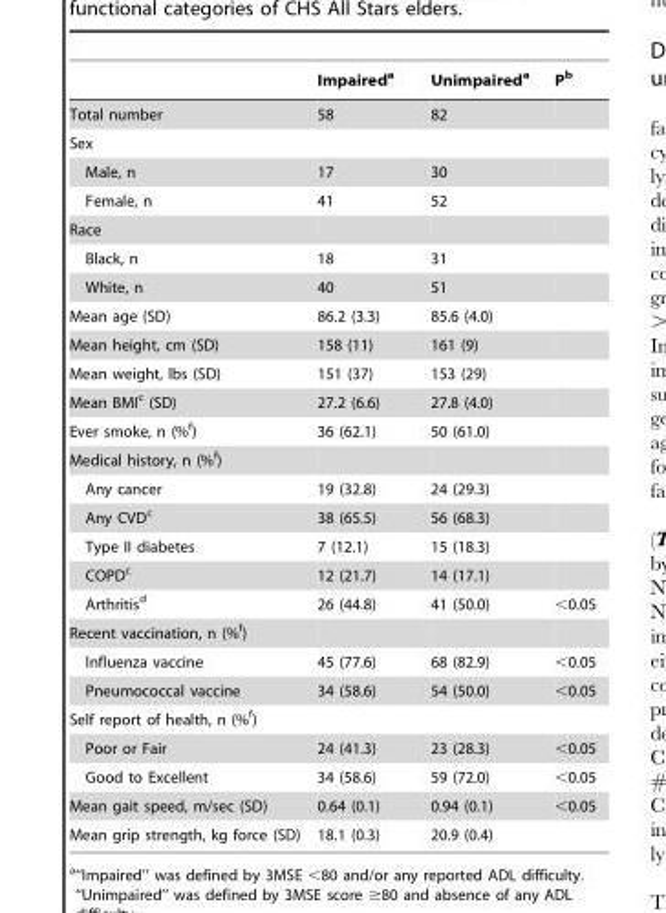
<table><thead><tr><td></td><td>Impaired<sup>a</sup></td><td>Unimpaired<sup>a</sup></td><td>P<sup>b</sup></td></tr></thead><tbody><tr><td>Total number</td><td>58</td><td>82</td><td></td></tr><tr><td colspan="4">Sex</td></tr><tr><td>Male, n</td><td>17</td><td>30</td><td></td></tr><tr><td>Female, n</td><td>41</td><td>52</td><td></td></tr><tr><td colspan="4">Race</td></tr><tr><td>Black, n</td><td>18</td><td>31</td><td></td></tr><tr><td>White, n</td><td>40</td><td>51</td><td></td></tr><tr><td>Mean age (SD)</td><td>86.2 (3.3)</td><td>85.6 (4.0)</td><td></td></tr><tr><td>Mean height, cm (SD)</td><td>158 (11)</td><td>161 (9)</td><td></td></tr><tr><td>Mean weight, lbs (SD)</td><td>151 (37)</td><td>153 (29)</td><td></td></tr><tr><td>Mean BMI<sup>c</sup> (SD)</td><td>27.2 (6.6)</td><td>27.8 (4.0)</td><td></td></tr><tr><td>Ever smoke, n (%<sup>f</sup>)</td><td>36 (62.1)</td><td>50 (61.0)</td><td></td></tr><tr><td colspan="4">Medical history, n (%<sup>f</sup>)</td></tr><tr><td>Any cancer</td><td>19 (32.8)</td><td>24 (29.3)</td><td></td></tr><tr><td>Any CVD<sup>c</sup></td><td>38 (65.5)</td><td>56 (68.3)</td><td></td></tr><tr><td>Type II diabetes</td><td>7 (12.1)</td><td>15 (18.3)</td><td></td></tr><tr><td>COPD<sup>c</sup></td><td>12 (21.7)</td><td>14 (17.1)</td><td></td></tr><tr><td>Arthritis<sup>d</sup></td><td>26 (44.8)</td><td>41 (50.0)</td><td>&lt;0.05</td></tr><tr><td colspan="4">Recent vaccination, n (%<sup>f</sup>)</td></tr><tr><td>Influenza vaccine</td><td>45 (77.6)</td><td>68 (82.9)</td><td>&lt;0.05</td></tr><tr><td>Pneumococcal vaccine</td><td>34 (58.6)</td><td>54 (50.0)</td><td>&lt;0.05</td></tr><tr><td colspan="4">Self report of health, n (%<sup>f</sup>)</td></tr><tr><td>Poor or Fair</td><td>24 (41.3)</td><td>23 (28.3)</td><td>&lt;0.05</td></tr><tr><td>Good to Excellent</td><td>34 (58.6)</td><td>59 (72.0)</td><td>&lt;0.05</td></tr><tr><td>Mean gait speed, m/sec (SD)</td><td>0.64 (0.1)</td><td>0.94 (0.1)</td><td>&lt;0.05</td></tr><tr><td>Mean grip strength, kg force (SD)</td><td>18.1 (0.3)</td><td>20.9 (0.4)</td><td></td></tr></tbody></table>